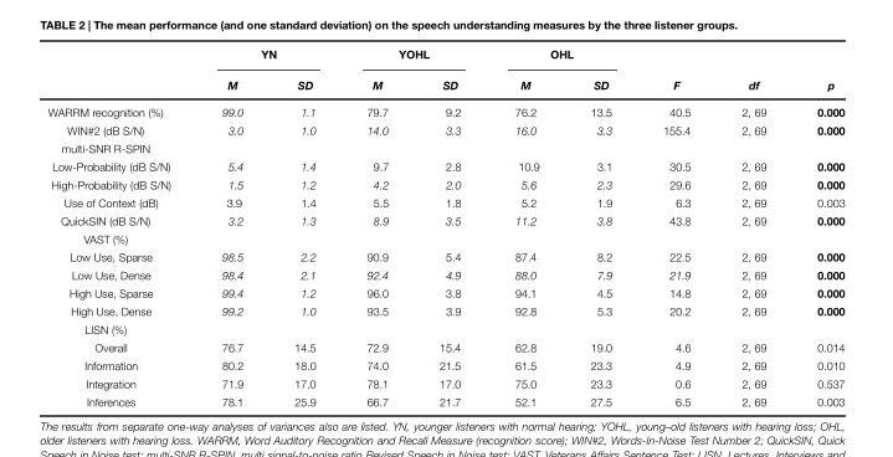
<table><thead><tr><td rowspan="2"></td><td colspan="2">YN</td><td colspan="2">YOHL</td><td colspan="2">OHL</td><td rowspan="2">F</td><td rowspan="2">df</td><td rowspan="2">p</td></tr><tr><td>M</td><td>SD</td><td>M</td><td>SD</td><td>M</td><td>SD</td></tr></thead><tbody><tr><td>WARRM recognition (%)</td><td>99.0</td><td>1.1</td><td>79.7</td><td>9.2</td><td>76.2</td><td>13.5</td><td>40.5</td><td>2, 69</td><td>0.000</td></tr><tr><td>WIN#2 (dB S/N)</td><td>3.0</td><td>1.0</td><td>14.0</td><td>3.3</td><td>16.0</td><td>3.3</td><td>155.4</td><td>2, 69</td><td>0.000</td></tr><tr><td colspan="10">multi-SNR R-SPIN</td></tr><tr><td>Low-Probability (dB S/N)</td><td>5.4</td><td>1.4</td><td>9.7</td><td>2.8</td><td>10.9</td><td>3.1</td><td>30.5</td><td>2, 69</td><td>0.000</td></tr><tr><td>High-Probability (dB S/N)</td><td>1.5</td><td>1.2</td><td>4.2</td><td>2.0</td><td>5.6</td><td>2.3</td><td>29.6</td><td>2, 69</td><td>0.000</td></tr><tr><td>Use of Context (dB)</td><td>3.9</td><td>1.4</td><td>5.5</td><td>1.8</td><td>5.2</td><td>1.9</td><td>6.3</td><td>2, 69</td><td>0.003</td></tr><tr><td>QuickSIN (dB S/N)</td><td>3.2</td><td>1.3</td><td>8.9</td><td>3.5</td><td>11.2</td><td>3.8</td><td>43.8</td><td>2, 69</td><td>0.000</td></tr><tr><td colspan="10">VAST (%)</td></tr><tr><td>Low Use, Sparse</td><td>98.5</td><td>2.2</td><td>90.9</td><td>5.4</td><td>87.4</td><td>8.2</td><td>22.5</td><td>2, 69</td><td>0.000</td></tr><tr><td>Low Use, Dense</td><td>98.4</td><td>2.1</td><td>92.4</td><td>4.9</td><td>88.0</td><td>7.9</td><td>21.9</td><td>2, 69</td><td>0.000</td></tr><tr><td>High Use, Sparse</td><td>99.4</td><td>1.2</td><td>96.0</td><td>3.8</td><td>94.1</td><td>4.5</td><td>14.8</td><td>2, 69</td><td>0.000</td></tr><tr><td>High Use, Dense</td><td>99.2</td><td>1.0</td><td>93.5</td><td>3.9</td><td>92.8</td><td>5.3</td><td>20.2</td><td>2, 69</td><td>0.000</td></tr><tr><td colspan="10">LISN (%)</td></tr><tr><td>Overall</td><td>76.7</td><td>14.5</td><td>72.9</td><td>15.4</td><td>62.8</td><td>19.0</td><td>4.6</td><td>2, 69</td><td>0.014</td></tr><tr><td>Information</td><td>80.2</td><td>18.0</td><td>74.0</td><td>21.5</td><td>61.5</td><td>23.3</td><td>4.9</td><td>2, 69</td><td>0.010</td></tr><tr><td>Integration</td><td>71.9</td><td>17.0</td><td>78.1</td><td>17.0</td><td>75.0</td><td>23.3</td><td>0.6</td><td>2, 69</td><td>0.537</td></tr><tr><td>Inferences</td><td>78.1</td><td>25.9</td><td>66.7</td><td>21.7</td><td>52.1</td><td>27.5</td><td>6.5</td><td>2, 69</td><td>0.003</td></tr></tbody></table>